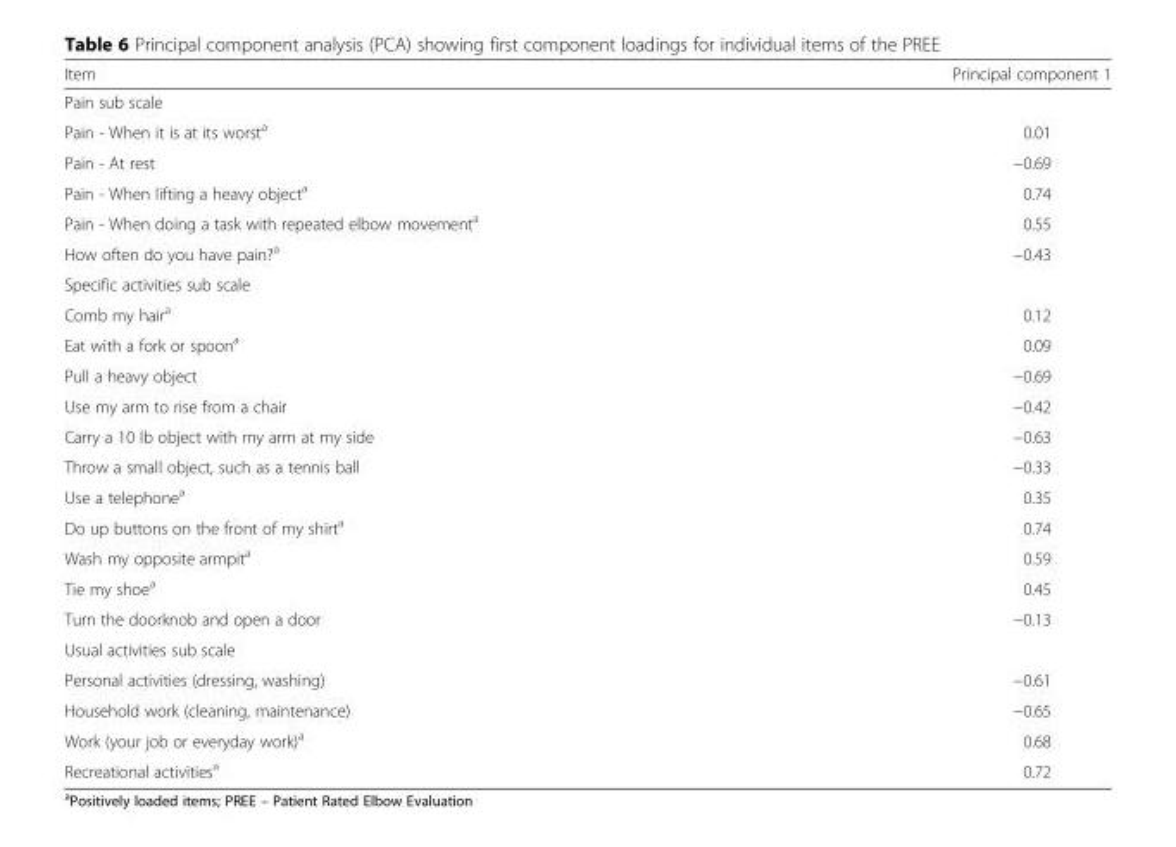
<table><thead><tr><td>Item</td><td>Principal component 1</td></tr></thead><tbody><tr><td colspan="2">Pain sub scale</td></tr><tr><td>Pain - When it is at its worst<sup>a</sup></td><td>0.01</td></tr><tr><td>Pain - At rest</td><td>−0.69</td></tr><tr><td>Pain - When lifting a heavy object<sup>a</sup></td><td>0.74</td></tr><tr><td>Pain - When doing a task with repeated elbow movement<sup>a</sup></td><td>0.55</td></tr><tr><td>How often do you have pain?<sup>a</sup></td><td>−0.43</td></tr><tr><td colspan="2">Specific activities sub scale</td></tr><tr><td>Comb my hair<sup>a</sup></td><td>0.12</td></tr><tr><td>Eat with a fork or spoon<sup>a</sup></td><td>0.09</td></tr><tr><td>Pull a heavy object</td><td>−0.69</td></tr><tr><td>Use my arm to rise from a chair</td><td>−0.42</td></tr><tr><td>Carry a 10 lb object with my arm at my side</td><td>−0.63</td></tr><tr><td>Throw a small object, such as a tennis ball</td><td>−0.33</td></tr><tr><td>Use a telephone<sup>a</sup></td><td>0.35</td></tr><tr><td>Do up buttons on the front of my shirt<sup>a</sup></td><td>0.74</td></tr><tr><td>Wash my opposite armpit<sup>a</sup></td><td>0.59</td></tr><tr><td>Tie my shoe<sup>a</sup></td><td>0.45</td></tr><tr><td>Turn the doorknob and open a door</td><td>−0.13</td></tr><tr><td colspan="2">Usual activities sub scale</td></tr><tr><td>Personal activities (dressing, washing)</td><td>−0.61</td></tr><tr><td>Household work (cleaning, maintenance)</td><td>−0.65</td></tr><tr><td>Work (your job or everyday work)<sup>a</sup></td><td>0.68</td></tr><tr><td>Recreational activities<sup>a</sup></td><td>0.72</td></tr></tbody></table>